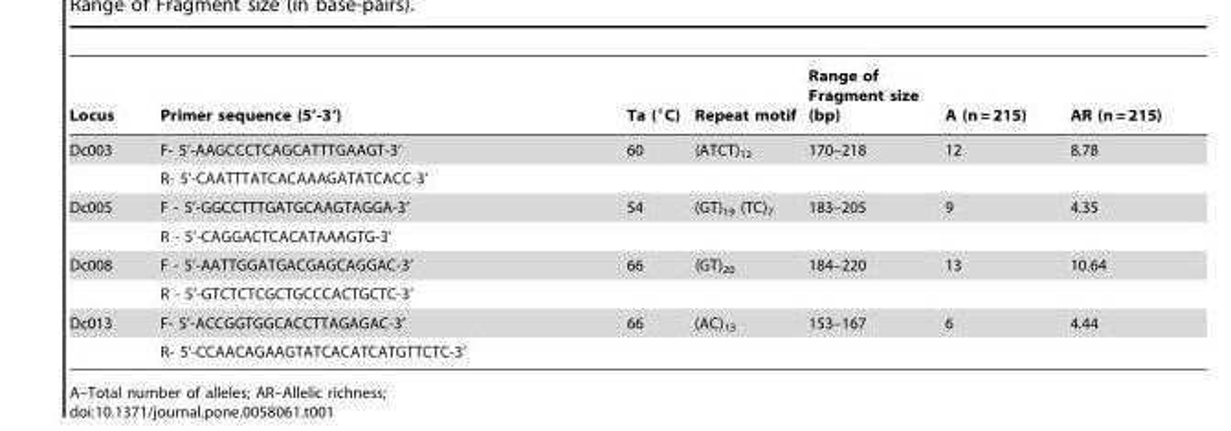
<table><thead><tr><td>Locus</td><td>Primer sequence (5’-3’)</td><td>Ta (°C)</td><td>Repeat motif</td><td>Range of Fragment size (bp)</td><td>A (n = 215)</td><td>AR (n = 215)</td></tr></thead><tbody><tr><td rowspan="2">Dc003</td><td>F- 5’-AAGCCCTCAGCATTTGAAGT-3’</td><td>60</td><td>(ATCT)<sub>12</sub></td><td>170–218</td><td>12</td><td>8.78</td></tr><tr><td>R- 5’-CAATTTATCACAAAGATATCACC-3’</td><td></td><td></td><td></td><td></td><td></td></tr><tr><td rowspan="2">Dc005</td><td>F - 5’-GGCCTTTGATGCAAGTAGGA-3’</td><td>54</td><td>(GT)<sub>19</sub> (TC)<sub>7</sub></td><td>183–205</td><td>9</td><td>4.35</td></tr><tr><td>R - 5’-CAGGACTCACATAAAGTG-3’</td><td></td><td></td><td></td><td></td><td></td></tr><tr><td rowspan="2">Dc008</td><td>F - 5’-AATTGGATGACGAGCAGGAC-3’</td><td>66</td><td>(GT)<sub>20</sub></td><td>184–220</td><td>13</td><td>10.64</td></tr><tr><td>R - 5’-GTCTCTCGCTGCCCACTGCTC-3’</td><td></td><td></td><td></td><td></td><td></td></tr><tr><td rowspan="2">Dc013</td><td>F- 5’-ACCGGTGGCACCTTAGAGAC-3’</td><td>66</td><td>(AC)<sub>13</sub></td><td>153–167</td><td>6</td><td>4.44</td></tr><tr><td>R- 5’-CCAACAGAAGTATCACATCATGTTCTC-3’</td><td></td><td></td><td></td><td></td><td></td></tr></tbody></table>